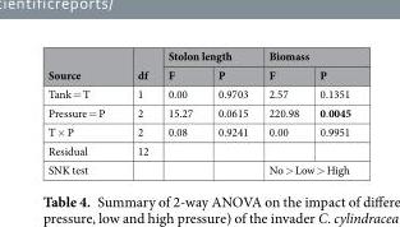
<table><thead><tr><td rowspan="2">Source</td><td rowspan="2">df</td><td colspan="2">Stolon length</td><td colspan="2">Biomass</td></tr><tr><td>F</td><td>P</td><td>F</td><td>P</td></tr></thead><tbody><tr><td>Tank = T</td><td>1</td><td>0.00</td><td>0.9703</td><td>2.57</td><td>0.1351</td></tr><tr><td>Pressure = P</td><td>2</td><td>15.27</td><td>0.0615</td><td>220.98</td><td>0.0045</td></tr><tr><td>T × P</td><td>2</td><td>0.08</td><td>0.9241</td><td>0.00</td><td>0.9951</td></tr><tr><td>Residual</td><td>12</td><td></td><td></td><td></td><td></td></tr><tr><td>SNK test</td><td></td><td></td><td></td><td colspan="2">No &gt; Low &gt; High</td></tr></tbody></table>